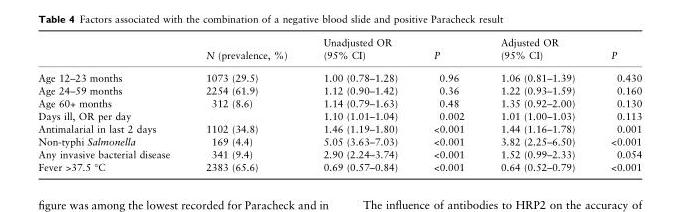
<table><thead><tr><td></td><td>N (prevalence, %)</td><td>Unadjusted OR (95% CI)</td><td>P</td><td>Adjusted OR (95% CI)</td><td>P</td></tr></thead><tbody><tr><td>Age 12–23 months</td><td>1073 (29.5)</td><td>1.00 (0.78–1.28)</td><td>0.96</td><td>1.06 (0.81–1.39)</td><td>0.430</td></tr><tr><td>Age 24–59 months</td><td>2254 (61.9)</td><td>1.12 (0.90–1.42)</td><td>0.36</td><td>1.22 (0.93–1.59)</td><td>0.160</td></tr><tr><td>Age 60+ months</td><td>312 (8.6)</td><td>1.14 (0.79–1.63)</td><td>0.48</td><td>1.35 (0.92–2.00)</td><td>0.130</td></tr><tr><td>Days ill, OR per day</td><td></td><td>1.10 (1.01–1.04)</td><td>0.002</td><td>1.01 (1.00–1.03)</td><td>0.113</td></tr><tr><td>Antimalarial in last 2 days</td><td>1102 (34.8)</td><td>1.46 (1.19–1.80)</td><td>&lt;0.001</td><td>1.44 (1.16–1.78)</td><td>0.001</td></tr><tr><td>Non-typhi Salmonella</td><td>169 (4.4)</td><td>5.05 (3.63–7.03)</td><td>&lt;0.001</td><td>3.82 (2.25–6.50)</td><td>&lt;0.001</td></tr><tr><td>Any invasive bacterial disease</td><td>341 (9.4)</td><td>2.90 (2.24–3.74)</td><td>&lt;0.001</td><td>1.52 (0.99–2.33)</td><td>0.054</td></tr><tr><td>Fever &gt;37.5 °C</td><td>2383 (65.6)</td><td>0.69 (0.57–0.84)</td><td>&lt;0.001</td><td>0.64 (0.52–0.79)</td><td>&lt;0.001</td></tr></tbody></table>